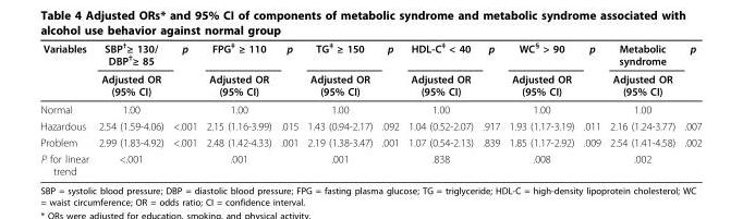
<table><thead><tr><td rowspan="2">Variables</td><td rowspan="2">SBP<sup>†</sup>≥ 130/ DBP<sup>†</sup>≥ 85 Adjusted OR (95% CI)</td><td rowspan="2">p</td><td rowspan="2">FPG<sup>‡</sup> ≥ 110 Adjusted OR (95% CI)</td><td rowspan="2">p</td><td rowspan="2">TG<sup>‡</sup> ≥ 150 Adjusted OR (95% CI)</td><td rowspan="2">p</td><td rowspan="2">HDL-C<sup>‡</sup> &lt; 40 Adjusted OR (95% CI)</td><td rowspan="2">p</td><td rowspan="2">WC<sup>§</sup> &gt; 90 Adjusted OR (95% CI)</td><td rowspan="2">p</td><td rowspan="2">Metabolic syndrome Adjusted OR (95% CI)</td><td rowspan="2">p</td></tr><tr></tr></thead><tbody><tr><td>Normal</td><td>1.00</td><td></td><td>1.00</td><td></td><td>1.00</td><td></td><td>1.00</td><td></td><td>1.00</td><td></td><td>1.00</td><td></td></tr><tr><td>Hazardous</td><td>2.54 (1.59-4.06)</td><td>&lt;.001</td><td>2.15 (1.16-3.99)</td><td>.015</td><td>1.43 (0.94-2.17)</td><td>.092</td><td>1.04 (0.52-2.07)</td><td>.917</td><td>1.93 (1.17-3.19)</td><td>.011</td><td>2.16 (1.24-3.77)</td><td>.007</td></tr><tr><td>Problem</td><td>2.99 (1.83-4.92)</td><td>&lt;.001</td><td>2.48 (1.42-4.33)</td><td>.001</td><td>2.19 (1.38-3.47)</td><td>.001</td><td>1.07 (0.54-2.13)</td><td>.839</td><td>1.85 (1.17-2.92)</td><td>.009</td><td>2.54 (1.41-4.58)</td><td>.002</td></tr><tr><td>P for linear trend</td><td>&lt;.001</td><td></td><td>.001</td><td></td><td>.001</td><td></td><td>.838</td><td></td><td>.008</td><td></td><td>.002</td><td></td></tr></tbody></table>